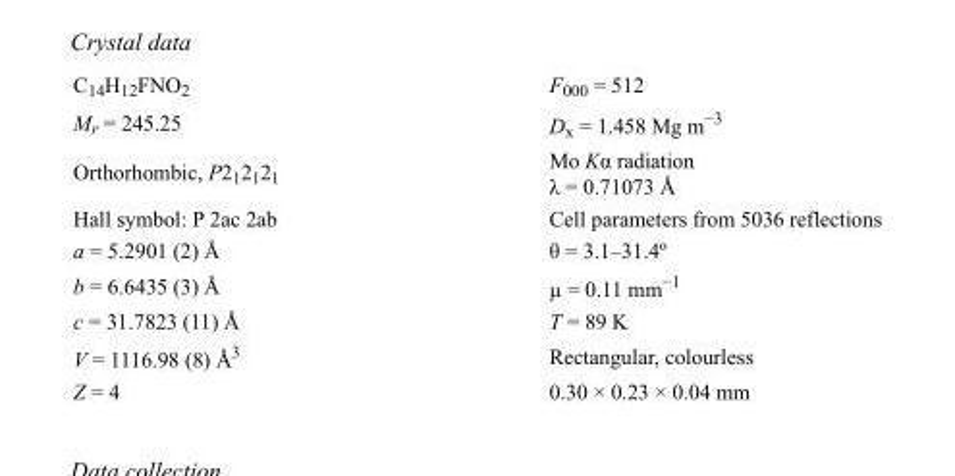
<table><tbody><tr><td>C<sub>14</sub>H<sub>12</sub>FNO<sub>2</sub></td><td>F000 = 512</td></tr><tr><td>M<sub>r</sub> = 245.25</td><td>D<sub>x</sub> = 1.458 Mg m<sup>−3</sup></td></tr><tr><td>Orthorhombic, P2<sub>1</sub>2<sub>1</sub>2<sub>1</sub></td><td>Mo Kα radiation λ = 0.71073 Å</td></tr><tr><td>Hall symbol: P 2ac 2ab</td><td>Cell parameters from 5036 reflections</td></tr><tr><td>a = 5.2901 (2) Å</td><td>θ = 3.1–31.4º</td></tr><tr><td>b = 6.6435 (3) Å</td><td>µ = 0.11 mm<sup>−1</sup></td></tr><tr><td>c = 31.7823 (11) Å</td><td>T = 89 K</td></tr><tr><td>V = 1116.98 (8) Å<sup>3</sup></td><td>Rectangular, colourless</td></tr><tr><td>Z = 4</td><td>0.30 × 0.23 × 0.04 mm</td></tr></tbody></table>